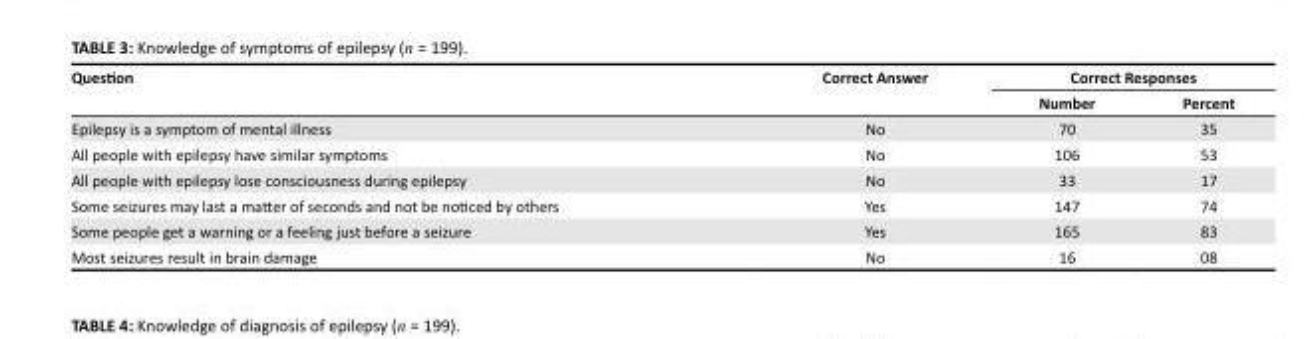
<table><thead><tr><td rowspan="2">Question</td><td rowspan="2">Correct Answer</td><td colspan="2">Correct Responses</td></tr><tr><td>Number</td><td>Percent</td></tr></thead><tbody><tr><td>Epilepsy is a symptom of mental illness</td><td>No</td><td>70</td><td>35</td></tr><tr><td>All people with epilepsy have similar symptoms</td><td>No</td><td>106</td><td>53</td></tr><tr><td>All people with epilepsy lose consciousness during epilepsy</td><td>No</td><td>33</td><td>17</td></tr><tr><td>Some seizures may last a matter of seconds and not be noticed by others</td><td>Yes</td><td>147</td><td>74</td></tr><tr><td>Some people get a warning or a feeling just before a seizure</td><td>Yes</td><td>165</td><td>83</td></tr><tr><td>Most seizures result in brain damage</td><td>No</td><td>16</td><td>08</td></tr></tbody></table>